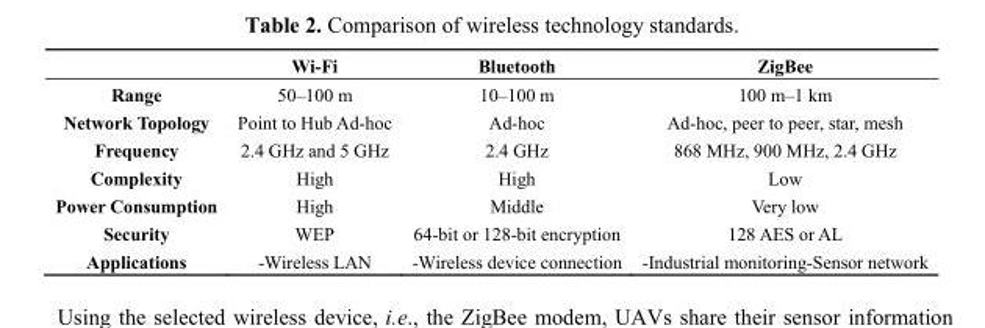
<table><thead><tr><td></td><td>Wi-Fi</td><td>Bluetooth</td><td>ZigBee</td></tr></thead><tbody><tr><td>Range</td><td>50–100 m</td><td>10–100 m</td><td>100 m–1 km</td></tr><tr><td>Network Topology</td><td>Point to Hub Ad-hoc</td><td>Ad-hoc</td><td>Ad-hoc, peer to peer, star, mesh</td></tr><tr><td>Frequency</td><td>2.4 GHz and 5 GHz</td><td>2.4 GHz</td><td>868 MHz, 900 MHz, 2.4 GHz</td></tr><tr><td>Complexity</td><td>High</td><td>High</td><td>Low</td></tr><tr><td>Power Consumption</td><td>High</td><td>Middle</td><td>Very low</td></tr><tr><td>Security</td><td>WEP</td><td>64-bit or 128-bit encryption</td><td>128 AES or AL</td></tr><tr><td>Applications</td><td>-Wireless LAN</td><td>-Wireless device connection</td><td>-Industrial monitoring-Sensor network</td></tr></tbody></table>